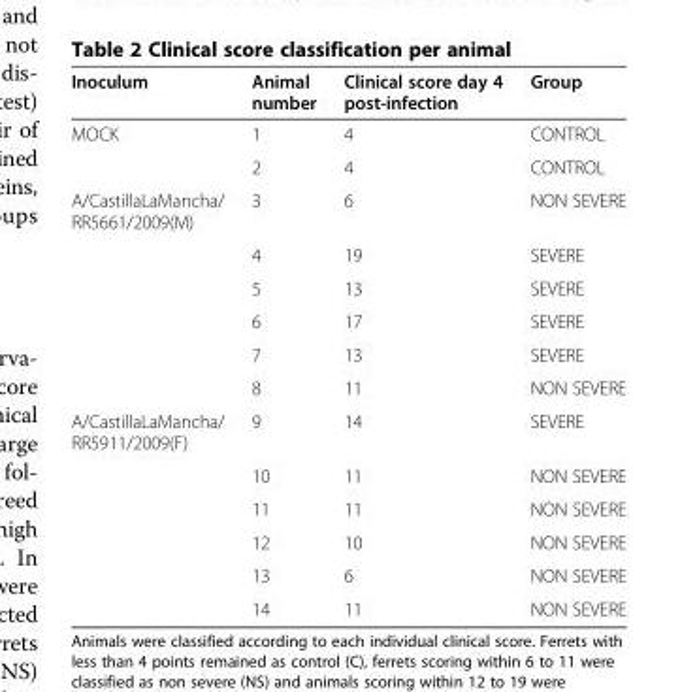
<table><thead><tr><td>Inoculum</td><td>Animal number</td><td>Clinical score day 4 post-infection</td><td>Group</td></tr></thead><tbody><tr><td rowspan="2">MOCK</td><td>1</td><td>4</td><td>CONTROL</td></tr><tr><td>2</td><td>4</td><td>CONTROL</td></tr><tr><td rowspan="6">A/CastillaLaMancha/ RR5661/2009(M)</td><td>3</td><td>6</td><td>NON SEVERE</td></tr><tr><td>4</td><td>19</td><td>SEVERE</td></tr><tr><td>5</td><td>13</td><td>SEVERE</td></tr><tr><td>6</td><td>17</td><td>SEVERE</td></tr><tr><td>7</td><td>13</td><td>SEVERE</td></tr><tr><td>8</td><td>11</td><td>NON SEVERE</td></tr><tr><td rowspan="6">A/CastillaLaMancha/ RR5911/2009(F)</td><td>9</td><td>14</td><td>SEVERE</td></tr><tr><td>10</td><td>11</td><td>NON SEVERE</td></tr><tr><td>11</td><td>11</td><td>NON SEVERE</td></tr><tr><td>12</td><td>10</td><td>NON SEVERE</td></tr><tr><td>13</td><td>6</td><td>NON SEVERE</td></tr><tr><td>14</td><td>11</td><td>NON SEVERE</td></tr></tbody></table>